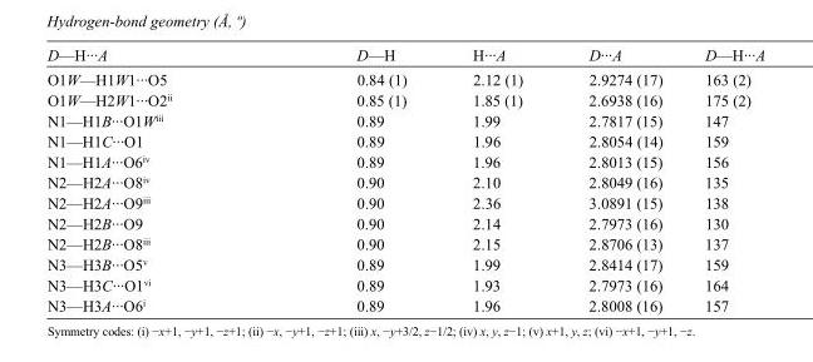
<table><tbody><tr><td>D—H···A</td><td>D—H</td><td>H···A</td><td>D···A</td><td>D—H···A</td></tr><tr><td>O1W—H1W1···O5</td><td>0.84 (1)</td><td>2.12 (1)</td><td>2.9274 (17)</td><td>163 (2)</td></tr><tr><td>O1W—H2W1···O2<sup>ii</sup></td><td>0.85 (1)</td><td>1.85 (1)</td><td>2.6938 (16)</td><td>175 (2)</td></tr><tr><td>N1—H1B···O1W<sup>iii</sup></td><td>0.89</td><td>1.99</td><td>2.7817 (15)</td><td>147</td></tr><tr><td>N1—H1C···O1</td><td>0.89</td><td>1.96</td><td>2.8054 (14)</td><td>159</td></tr><tr><td>N1—H1A···O6<sup>iv</sup></td><td>0.89</td><td>1.96</td><td>2.8013 (15)</td><td>156</td></tr><tr><td>N2—H2A···O8<sup>iv</sup></td><td>0.90</td><td>2.10</td><td>2.8049 (16)</td><td>135</td></tr><tr><td>N2—H2A···O9<sup>iii</sup></td><td>0.90</td><td>2.36</td><td>3.0891 (15)</td><td>138</td></tr><tr><td>N2—H2B···O9</td><td>0.90</td><td>2.14</td><td>2.7973 (16)</td><td>130</td></tr><tr><td>N2—H2B···O8<sup>iii</sup></td><td>0.90</td><td>2.15</td><td>2.8706 (13)</td><td>137</td></tr><tr><td>N3—H3B···O5<sup>v</sup></td><td>0.89</td><td>1.99</td><td>2.8414 (17)</td><td>159</td></tr><tr><td>N3—H3C···O1<sup>vi</sup></td><td>0.89</td><td>1.93</td><td>2.7973 (16)</td><td>164</td></tr><tr><td>N3—H3A···O6<sup>i</sup></td><td>0.89</td><td>1.96</td><td>2.8008 (16)</td><td>157</td></tr></tbody></table>